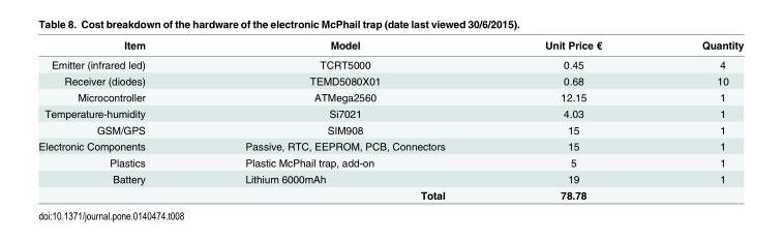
<table><thead><tr><td>Item</td><td>Model</td><td>Unit Price €</td><td>Quantity</td></tr></thead><tbody><tr><td>Emitter (infrared led)</td><td>TCRT5000</td><td>0.45</td><td>4</td></tr><tr><td>Receiver (diodes)</td><td>TEMD5080X01</td><td>0.68</td><td>10</td></tr><tr><td>Microcontroller</td><td>ATMega2560</td><td>12.15</td><td>1</td></tr><tr><td>Temperature-humidity</td><td>Si7021</td><td>4.03</td><td>1</td></tr><tr><td>GSM/GPS</td><td>SIM908</td><td>15</td><td>1</td></tr><tr><td>Electronic Components</td><td>Passive, RTC, EEPROM, PCB, Connectors</td><td>15</td><td>1</td></tr><tr><td>Plastics</td><td>Plastic McPhail trap, add-on</td><td>5</td><td>1</td></tr><tr><td>Battery</td><td>Lithium 6000mAh</td><td>19</td><td>1</td></tr><tr><td colspan="2">Total</td><td>78.78</td><td></td></tr></tbody></table>